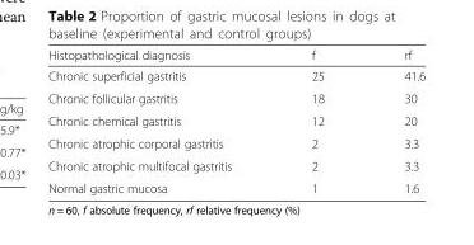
<table><thead><tr><td>Histopathological diagnosis</td><td>f</td><td>rf</td></tr></thead><tbody><tr><td>Chronic superficial gastritis</td><td>25</td><td>41.6</td></tr><tr><td>Chronic follicular gastritis</td><td>18</td><td>30</td></tr><tr><td>Chronic chemical gastritis</td><td>12</td><td>20</td></tr><tr><td>Chronic atrophic corporal gastritis</td><td>2</td><td>3.3</td></tr><tr><td>Chronic atrophic multifocal gastritis</td><td>2</td><td>3.3</td></tr><tr><td>Normal gastric mucosa</td><td>1</td><td>1.6</td></tr></tbody></table>